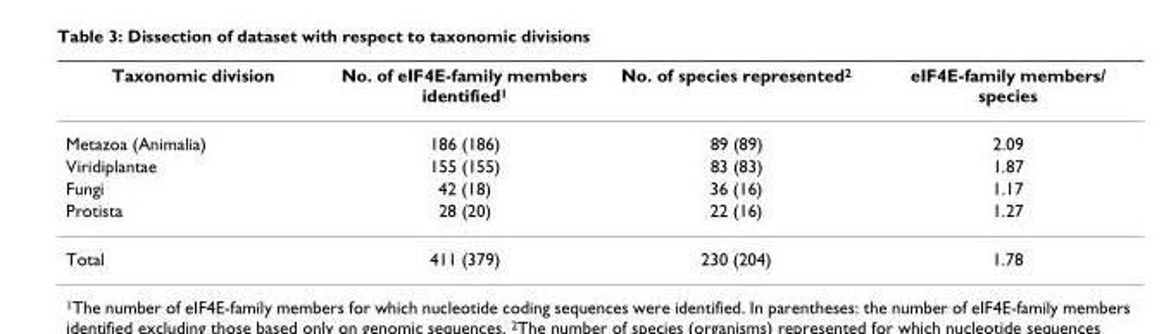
<table><thead><tr><td>Taxonomic division</td><td>No. of eIF4E-family members identified<sup>1</sup></td><td>No. of species represented<sup>2</sup></td><td>eIF4E-family members/ species</td></tr></thead><tbody><tr><td>Metazoa (Animalia)</td><td>186 (186)</td><td>89 (89)</td><td>2.09</td></tr><tr><td>Viridiplantae</td><td>155 (155)</td><td>83 (83)</td><td>1.87</td></tr><tr><td>Fungi</td><td>42 (18)</td><td>36 (16)</td><td>1.17</td></tr><tr><td>Protista</td><td>28 (20)</td><td>22 (16)</td><td>1.27</td></tr><tr><td>Total</td><td>411 (379)</td><td>230 (204)</td><td>1.78</td></tr></tbody></table>